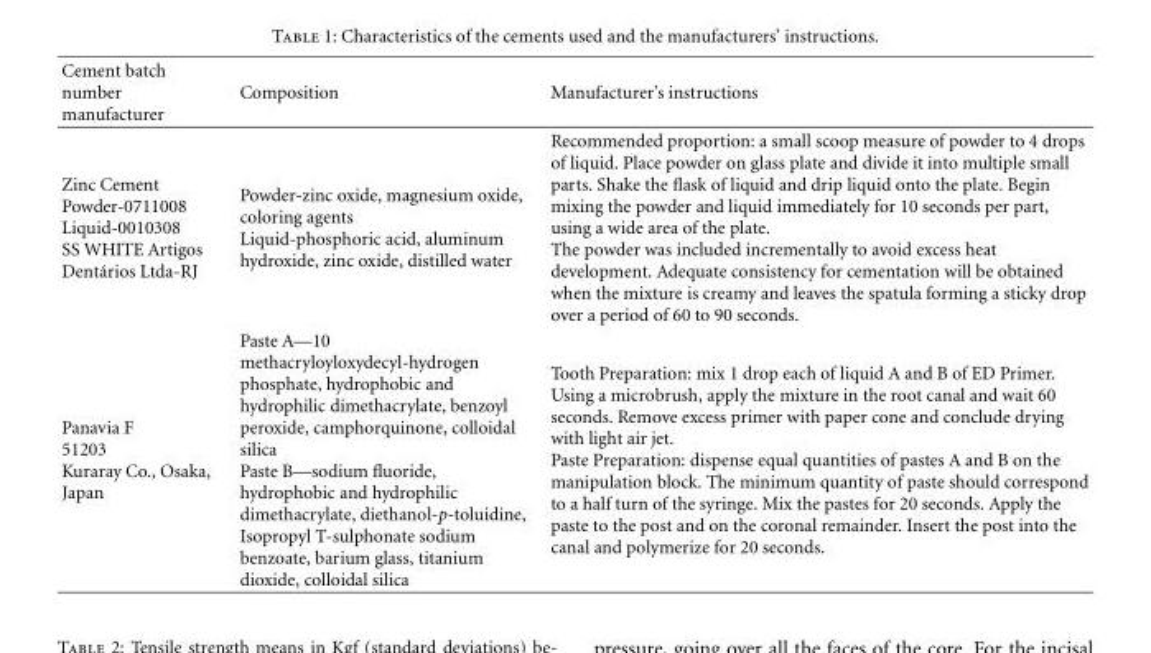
<table><thead><tr><td>Cement batch number manufacturer</td><td>Composition</td><td>Manufacturer’s instructions</td></tr></thead><tbody><tr><td>Zinc Cement Powder-0711008 Liquid-0010308 SS WHITE Artigos Dent´arios Ltda-RJ</td><td>Powder-zinc oxide, magnesium oxide, coloring agents Liquid-phosphoric acid, aluminum hydroxide, zinc oxide, distilled water</td><td>Recommended proportion: a small scoop measure of powder to 4 drops of liquid. Place powder on glass plate and divide it into multiple small parts. Shake the flask of liquid and drip liquid onto the plate. Begin mixing the powder and liquid immediately for 10 seconds per part, using a wide area of the plate. The powder was included incrementally to avoid excess heat development. Adequate consistency for cementation will be obtained when the mixture is creamy and leaves the spatula forming a sticky drop over a period of 60 to 90 seconds.</td></tr><tr><td>Panavia F 51203 Kuraray Co., Osaka, Japan</td><td>Paste A—10 methacryloyloxydecyl-hydrogen phosphate, hydrophobic and hydrophilic dimethacrylate, benzoyl peroxide, camphorquinone, colloidal silica Paste B—sodium fluoride, hydrophobic and hydrophilic dimethacrylate, diethanol-p-toluidine, Isopropyl T-sulphonate sodium benzoate, barium glass, titanium dioxide, colloidal silica</td><td>Tooth Preparation: mix 1 drop each of liquid A and B of ED Primer. Using a microbrush, apply the mixture in the root canal and wait 60 seconds. Remove excess primer with paper cone and conclude drying with light air jet. Paste Preparation: dispense equal quantities of pastes A and B on the manipulation block. The minimum quantity of paste should correspond to a half turn of the syringe. Mix the pastes for 20 seconds. Apply the paste to the post and on the coronal remainder. Insert the post into the canal and polymerize for 20 seconds.</td></tr></tbody></table>